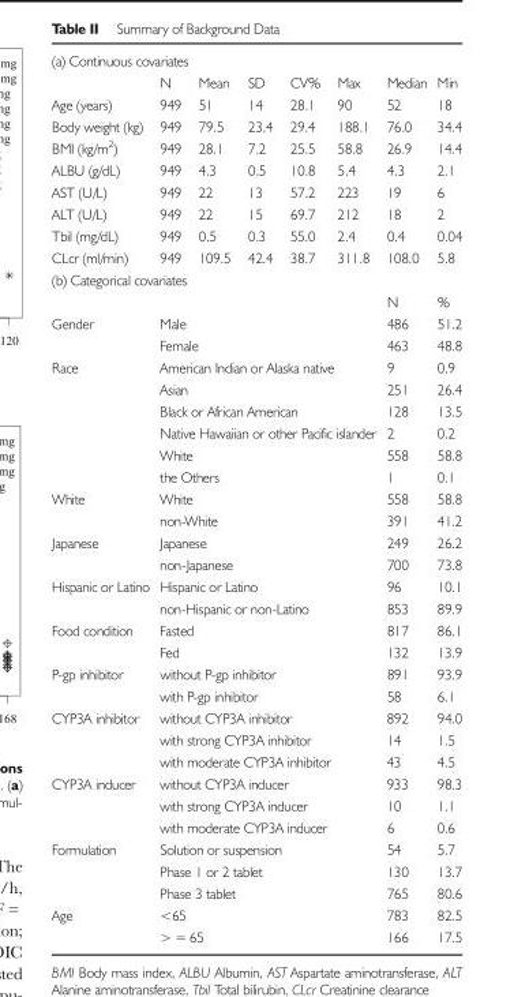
<table><tbody><tr><td colspan="8">(a) Continuous covariates</td></tr><tr><td></td><td>N</td><td>Mean</td><td>SD</td><td>CV%</td><td>Max</td><td>Median</td><td>Min</td></tr><tr><td>Age (years)</td><td>949</td><td>51</td><td>14</td><td>28.1</td><td>90</td><td>52</td><td>18</td></tr><tr><td>Body weight (kg)</td><td>949</td><td>79.5</td><td>23.4</td><td>29.4</td><td>188.1</td><td>76.0</td><td>34.4</td></tr><tr><td>BMI (kg/m<sup>2</sup>)</td><td>949</td><td>28.1</td><td>7.2</td><td>25.5</td><td>58.8</td><td>26.9</td><td>14.4</td></tr><tr><td>ALBU (g/dL)</td><td>949</td><td>4.3</td><td>0.5</td><td>10.8</td><td>5.4</td><td>4.3</td><td>2.1</td></tr><tr><td>AST (U/L)</td><td>949</td><td>22</td><td>13</td><td>57.2</td><td>223</td><td>19</td><td>6</td></tr><tr><td>ALT (U/L)</td><td>949</td><td>22</td><td>15</td><td>69.7</td><td>212</td><td>18</td><td>2</td></tr><tr><td>Tbil (mg/dL)</td><td>949</td><td>0.5</td><td>0.3</td><td>55.0</td><td>2.4</td><td>0.4</td><td>0.04</td></tr><tr><td>CLcr (ml/min)</td><td>949</td><td>109.5</td><td>42.4</td><td>38.7</td><td>311.8</td><td>108.0</td><td>5.8</td></tr><tr><td colspan="8">(b) Categorical covariates</td></tr><tr><td></td><td colspan="5"></td><td>N</td><td>%</td></tr><tr><td rowspan="2">Gender</td><td colspan="5">Male</td><td>486</td><td>51.2</td></tr><tr><td colspan="5">Female</td><td>463</td><td>48.8</td></tr><tr><td rowspan="6">Race</td><td colspan="5">American Indian or Alaska native</td><td>9</td><td>0.9</td></tr><tr><td colspan="5">Asian</td><td>251</td><td>26.4</td></tr><tr><td colspan="5">Black or African American</td><td>128</td><td>13.5</td></tr><tr><td colspan="5">Native Hawaiian or other Pacific islander</td><td>2</td><td>0.2</td></tr><tr><td colspan="5">White</td><td>558</td><td>58.8</td></tr><tr><td colspan="5">the Others</td><td>1</td><td>0.1</td></tr><tr><td rowspan="2">White</td><td colspan="5">White</td><td>558</td><td>58.8</td></tr><tr><td colspan="5">non-White</td><td>391</td><td>41.2</td></tr><tr><td rowspan="2">Japanese</td><td colspan="5">Japanese</td><td>249</td><td>26.2</td></tr><tr><td colspan="5">non-Japanese</td><td>700</td><td>73.8</td></tr><tr><td rowspan="2">Hispanic or Latino</td><td colspan="5">Hispanic or Latino</td><td>96</td><td>10.1</td></tr><tr><td colspan="5">non-Hispanic or non-Latino</td><td>853</td><td>89.9</td></tr><tr><td rowspan="2">Food condition</td><td colspan="5">Fasted</td><td>817</td><td>86.1</td></tr><tr><td colspan="5">Fed</td><td>132</td><td>13.9</td></tr><tr><td rowspan="2">P-gp inhibitor</td><td colspan="5">without P-gp inhibitor</td><td>891</td><td>93.9</td></tr><tr><td colspan="5">with P-gp inhibitor</td><td>58</td><td>6.1</td></tr><tr><td rowspan="3">CYP3A inhibitor</td><td colspan="5">without CYP3A inhibitor</td><td>892</td><td>94.0</td></tr><tr><td colspan="5">with strong CYP3A inhibitor</td><td>14</td><td>1.5</td></tr><tr><td colspan="5">with moderate CYP3A inhibitor</td><td>43</td><td>4.5</td></tr><tr><td rowspan="3">CYP3A inducer</td><td colspan="5">without CYP3A inducer</td><td>933</td><td>98.3</td></tr><tr><td colspan="5">with strong CYP3A inducer</td><td>10</td><td>1.1</td></tr><tr><td colspan="5">with moderate CYP3A inducer</td><td>6</td><td>0.6</td></tr><tr><td rowspan="3">Formulation</td><td colspan="5">Solution or suspension</td><td>54</td><td>5.7</td></tr><tr><td colspan="5">Phase 1 or 2 tablet</td><td>130</td><td>13.7</td></tr><tr><td colspan="5">Phase 3 tablet</td><td>765</td><td>80.6</td></tr><tr><td rowspan="2">Age</td><td colspan="5">&lt;65</td><td>783</td><td>82.5</td></tr><tr><td colspan="5">&gt; = 65</td><td>166</td><td>17.5</td></tr></tbody></table>